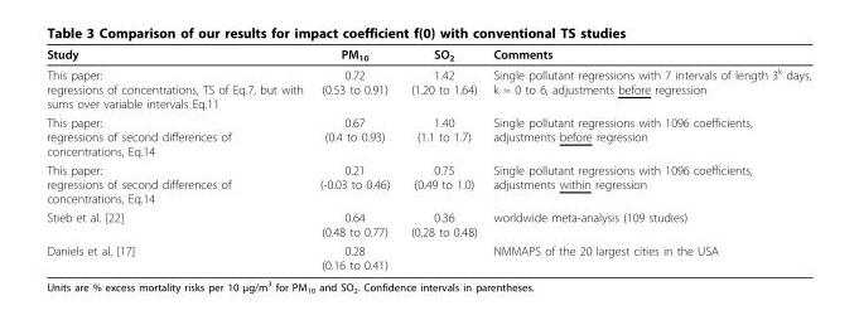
<table><thead><tr><td>Study</td><td>PM<sub>10</sub></td><td>SO<sub>2</sub></td><td>Comments</td></tr></thead><tbody><tr><td>This paper: regressions of concentrations, TS of Eq.7, but with sums over variable intervals Eq.11</td><td>0.72 (0.53 to 0.91)</td><td>1.42 (1.20 to 1.64)</td><td>Single pollutant regressions with 7 intervals of length 3<sup>k</sup> days, k = 0 to 6, adjustments before regression</td></tr><tr><td>This paper: regressions of second differences of concentrations, Eq.14</td><td>0.67 (0.4 to 0.93)</td><td>1.40 (1.1 to 1.7)</td><td>Single pollutant regressions with 1096 coefficients, adjustments before regression</td></tr><tr><td>This paper: regressions of second differences of concentrations, Eq.14</td><td>0.21 (-0.03 to 0.46)</td><td>0.75 (0.49 to 1.0)</td><td>Single pollutant regressions with 1096 coefficients, adjustments within regression</td></tr><tr><td>Stieb et al. [22]</td><td>0.64 (0.48 to 0.77)</td><td>0.36 (0.28 to 0.48)</td><td>worldwide meta-analysis (109 studies)</td></tr><tr><td>Daniels et al. [17]</td><td>0.28 (0.16 to 0.41)</td><td></td><td>NMMAPS of the 20 largest cities in the USA</td></tr></tbody></table>